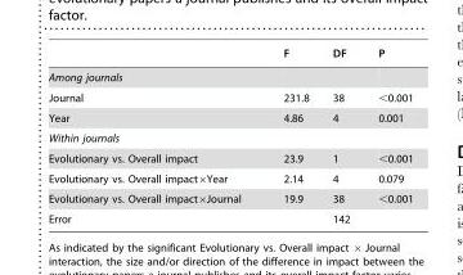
<table><thead><tr><td></td><td>F</td><td>DF</td><td>P</td></tr></thead><tbody><tr><td colspan="4">Among journals</td></tr><tr><td>Journal</td><td>231.8</td><td>38</td><td>&lt;0.001</td></tr><tr><td>Year</td><td>4.86</td><td>4</td><td>0.001</td></tr><tr><td colspan="4">Within journals</td></tr><tr><td>Evolutionary vs. Overall impact</td><td>23.9</td><td>1</td><td>&lt;0.001</td></tr><tr><td>Evolutionary vs. Overall impact×Year</td><td>2.14</td><td>4</td><td>0.079</td></tr><tr><td>Evolutionary vs. Overall impact×Journal</td><td>19.9</td><td>38</td><td>&lt;0.001</td></tr><tr><td>Error</td><td></td><td>142</td><td></td></tr></tbody></table>